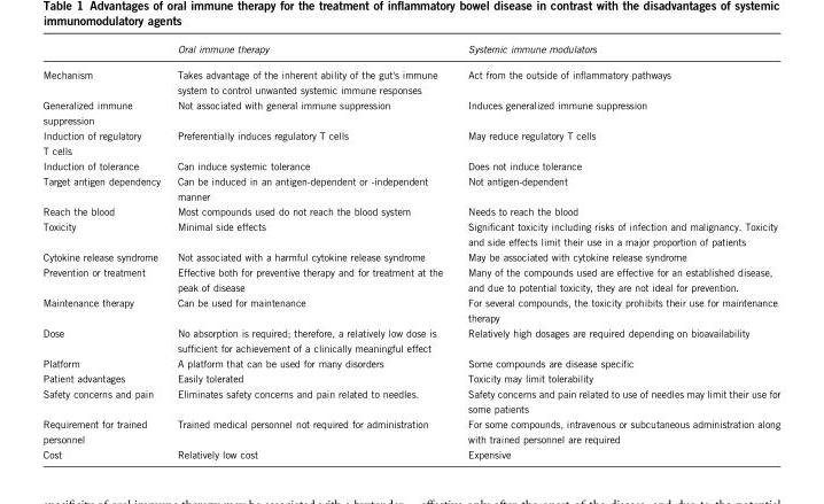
<table><thead><tr><td></td><td>Oral immune therapy</td><td>Systemic immune modulators</td></tr></thead><tbody><tr><td>Mechanism</td><td>Takes advantage of the inherent ability of the gut&#x27;s immune system to control unwanted systemic immune responses</td><td>Act from the outside of inflammatory pathways</td></tr><tr><td>Generalized immune suppression</td><td>Not associated with general immune suppression</td><td>Induces generalized immune suppression</td></tr><tr><td>Induction of regulatory T cells</td><td>Preferentially induces regulatory T cells</td><td>May reduce regulatory T cells</td></tr><tr><td>Induction of tolerance</td><td>Can induce systemic tolerance</td><td>Does not induce tolerance</td></tr><tr><td>Target antigen dependency</td><td>Can be induced in an antigen-dependent or -independent manner</td><td>Not antigen-dependent</td></tr><tr><td>Reach the blood</td><td>Most compounds used do not reach the blood system</td><td>Needs to reach the blood</td></tr><tr><td>Toxicity</td><td>Minimal side effects</td><td>Significant toxicity including risks of infection and malignancy. Toxicity and side effects limit their use in a major proportion of patients</td></tr><tr><td>Cytokine release syndrome</td><td>Not associated with a harmful cytokine release syndrome</td><td>May be associated with cytokine release syndrome</td></tr><tr><td>Prevention or treatment</td><td>Effective both for preventive therapy and for treatment at the peak of disease</td><td>Many of the compounds used are effective for an established disease, and due to potential toxicity, they are not ideal for prevention.</td></tr><tr><td>Maintenance therapy</td><td>Can be used for maintenance</td><td>For several compounds, the toxicity prohibits their use for maintenance therapy</td></tr><tr><td>Dose</td><td>No absorption is required; therefore, a relatively low dose is sufficient for achievement of a clinically meaningful effect</td><td>Relatively high dosages are required depending on bioavailability</td></tr><tr><td>Platform</td><td>A platform that can be used for many disorders</td><td>Some compounds are disease specific</td></tr><tr><td>Patient advantages</td><td>Easily tolerated</td><td>Toxicity may limit tolerability</td></tr><tr><td>Safety concerns and pain</td><td>Eliminates safety concerns and pain related to needles.</td><td>Safety concerns and pain related to use of needles may limit their use for some patients</td></tr><tr><td>Requirement for trained personnel</td><td>Trained medical personnel not required for administration</td><td>For some compounds, intravenous or subcutaneous administration along with trained personnel are required</td></tr><tr><td>Cost</td><td>Relatively low cost</td><td>Expensive</td></tr></tbody></table>